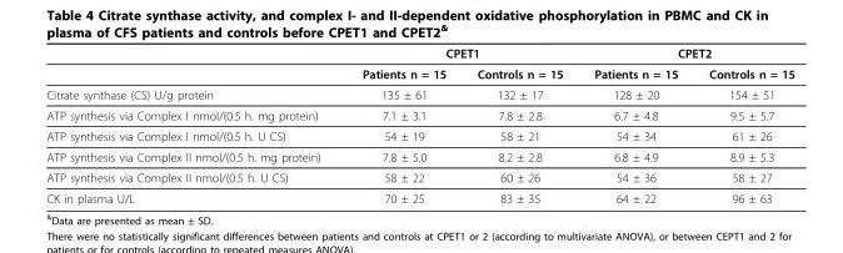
<table><thead><tr><td rowspan="2"></td><td colspan="2">CPET1</td><td colspan="2">CPET2</td></tr><tr><td>Patients n = 15</td><td>Controls n = 15</td><td>Patients n = 15</td><td>Controls n = 15</td></tr></thead><tbody><tr><td>Citrate synthase (CS) U/g protein</td><td>135 ± 61</td><td>132 ± 17</td><td>128 ± 20</td><td>154 ± 51</td></tr><tr><td>ATP synthesis via Complex I nmol/(0.5 h. mg protein)</td><td>7.1 ± 3.1</td><td>7.8 ± 2.8</td><td>6.7 ± 4.8</td><td>9.5 ± 5.7</td></tr><tr><td>ATP synthesis via Complex I nmol/(0.5 h. U CS)</td><td>54 ± 19</td><td>58 ± 21</td><td>54 ± 34</td><td>61 ± 26</td></tr><tr><td>ATP synthesis via Complex II nmol/(0.5 h. mg protein)</td><td>7.8 ± 5.0</td><td>8.2 ± 2.8</td><td>6.8 ± 4.9</td><td>8.9 ± 5.3</td></tr><tr><td>ATP synthesis via Complex II nmol/(0.5 h. U CS)</td><td>58 ± 22</td><td>60 ± 26</td><td>54 ± 36</td><td>58 ± 27</td></tr><tr><td>CK in plasma U/L</td><td>70 ± 25</td><td>83 ± 35</td><td>64 ± 22</td><td>96 ± 63</td></tr></tbody></table>